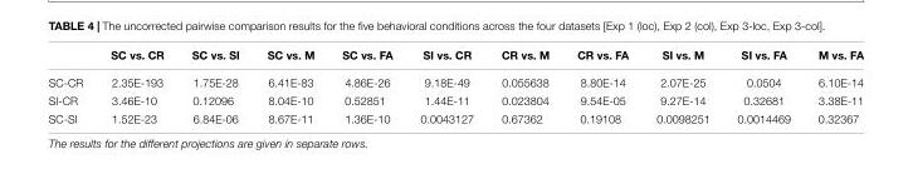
<table><thead><tr><td></td><td>SC vs. CR</td><td>SC vs. SI</td><td>SC vs. M</td><td>SC vs. FA</td><td>SI vs. CR</td><td>CR vs. M</td><td>CR vs. FA</td><td>SI vs. M</td><td>SI vs. FA</td><td>M vs. FA</td></tr></thead><tbody><tr><td>SC-CR</td><td>2.35E-193</td><td>1.75E-28</td><td>6.41E-83</td><td>4.86E-26</td><td>9.18E-49</td><td>0.055638</td><td>8.80E-14</td><td>2.07E-25</td><td>0.0504</td><td>6.10E-14</td></tr><tr><td>SI-CR</td><td>3.46E-10</td><td>0.12096</td><td>8.04E-10</td><td>0.52851</td><td>1.44E-11</td><td>0.023804</td><td>9.54E-05</td><td>9.27E-14</td><td>0.32681</td><td>3.38E-11</td></tr><tr><td>SC-SI</td><td>1.52E-23</td><td>6.84E-06</td><td>8.67E-11</td><td>1.36E-10</td><td>0.0043127</td><td>0.67362</td><td>0.19108</td><td>0.0098251</td><td>0.0014469</td><td>0.32367</td></tr></tbody></table>